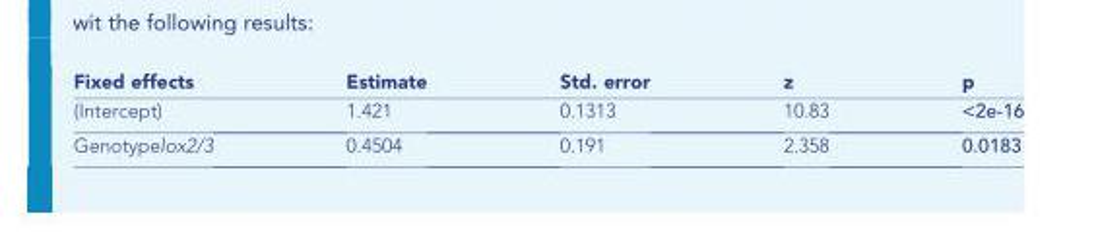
<table><thead><tr><td>Fixed effects</td><td>Estimate</td><td>Std. error</td><td>z</td><td>p</td></tr></thead><tbody><tr><td>(Intercept)</td><td>1.421</td><td>0.1313</td><td>10.83</td><td>&lt;2e-16</td></tr><tr><td>Genotypelox2/3</td><td>0.4504</td><td>0.191</td><td>2.358</td><td>0.0183</td></tr></tbody></table>